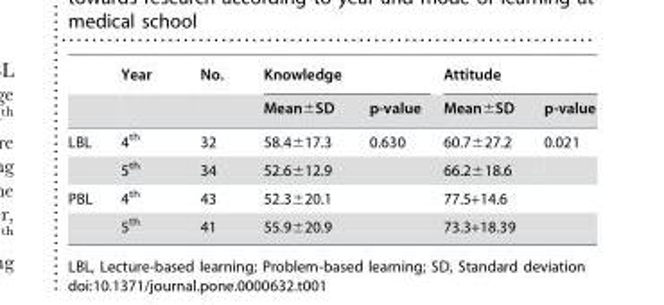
<table><thead><tr><td rowspan="2"></td><td rowspan="2">Year</td><td rowspan="2">No.</td><td colspan="2">Knowledge</td><td colspan="2">Attitude</td></tr><tr><td>Mean±SD</td><td>p-value</td><td>Mean±SD</td><td>p-value</td></tr></thead><tbody><tr><td rowspan="2">LBL</td><td>4<sup>th</sup></td><td>32</td><td>58.4±17.3</td><td>0.630</td><td>60.7±27.2</td><td>0.021</td></tr><tr><td>5<sup>th</sup></td><td>34</td><td>52.6±12.9</td><td></td><td>66.2±18.6</td><td></td></tr><tr><td rowspan="2">PBL</td><td>4<sup>th</sup></td><td>43</td><td>52.3±20.1</td><td></td><td>77.5+14.6</td><td></td></tr><tr><td>5<sup>th</sup></td><td>41</td><td>55.9±20.9</td><td></td><td>73.3+18.39</td><td></td></tr></tbody></table>